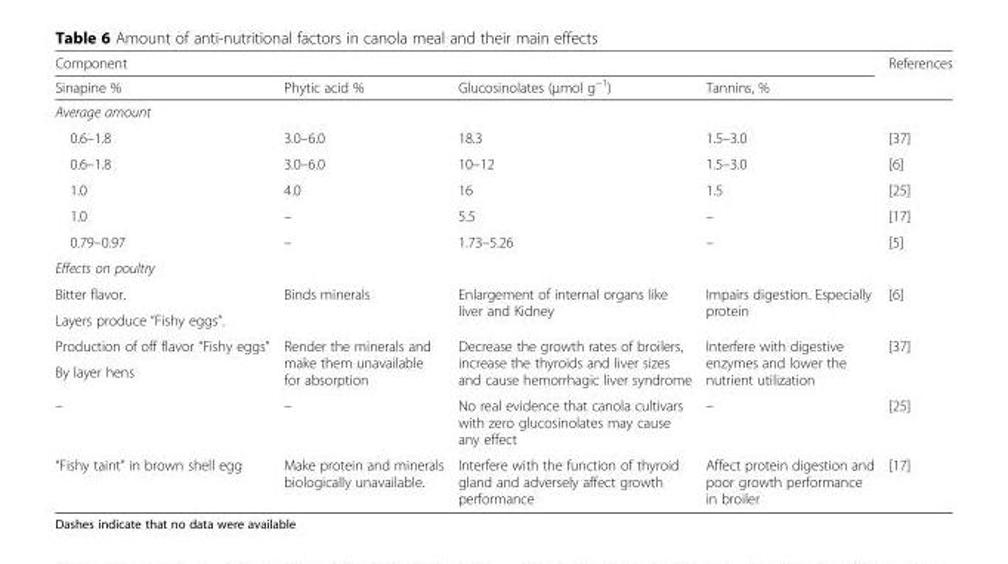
<table><thead><tr><td colspan="4">Component</td><td rowspan="2">References</td></tr><tr><td>Sinapine %</td><td>Phytic acid %</td><td>Glucosinolates (μmol g<sup>−1</sup>)</td><td>Tannins, %</td></tr></thead><tbody><tr><td colspan="5">Average amount</td></tr><tr><td>0.6–1.8</td><td>3.0–6.0</td><td>18.3</td><td>1.5–3.0</td><td>[37]</td></tr><tr><td>0.6–1.8</td><td>3.0–6.0</td><td>10–12</td><td>1.5–3.0</td><td>[6]</td></tr><tr><td>1.0</td><td>4.0</td><td>16</td><td>1.5</td><td>[25]</td></tr><tr><td>1.0</td><td>–</td><td>5.5</td><td>–</td><td>[17]</td></tr><tr><td>0.79–0.97</td><td>–</td><td>1.73–5.26</td><td>–</td><td>[5]</td></tr><tr><td colspan="5">Effects on poultry</td></tr><tr><td>Bitter flavor.</td><td rowspan="2">Binds minerals</td><td rowspan="2">Enlargement of internal organs like liver and Kidney</td><td rowspan="2">Impairs digestion. Especially protein</td><td rowspan="2">[6]</td></tr><tr><td>Layers produce “Fishy eggs”.</td></tr><tr><td>Production of off flavor “Fishy eggs”</td><td rowspan="2">Render the minerals and make them unavailable for absorption</td><td rowspan="2">Decrease the growth rates of broilers, increase the thyroids and liver sizes and cause hemorrhagic liver syndrome</td><td rowspan="2">Interfere with digestive enzymes and lower the nutrient utilization</td><td rowspan="2">[37]</td></tr><tr><td>By layer hens</td></tr><tr><td>–</td><td>–</td><td>No real evidence that canola cultivars with zero glucosinolates may cause any effect</td><td>–</td><td>[25]</td></tr><tr><td>“Fishy taint” in brown shell egg</td><td>Make protein and minerals biologically unavailable.</td><td>Interfere with the function of thyroid gland and adversely affect growth performance</td><td>Affect protein digestion and poor growth performance in broiler</td><td>[17]</td></tr></tbody></table>